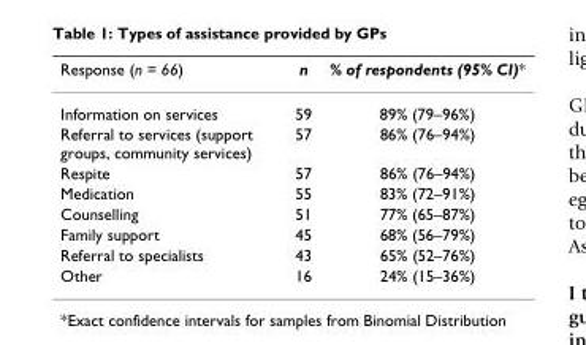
<table><thead><tr><td>Response (n = 66)</td><td>n</td><td>% of respondents (95% CI)*</td></tr></thead><tbody><tr><td>Information on services</td><td>59</td><td>89% (79–96%)</td></tr><tr><td>Referral to services (support groups, community services)</td><td>57</td><td>86% (76–94%)</td></tr><tr><td>Respite</td><td>57</td><td>86% (76–94%)</td></tr><tr><td>Medication</td><td>55</td><td>83% (72–91%)</td></tr><tr><td>Counselling</td><td>51</td><td>77% (65–87%)</td></tr><tr><td>Family support</td><td>45</td><td>68% (56–79%)</td></tr><tr><td>Referral to specialists</td><td>43</td><td>65% (52–76%)</td></tr><tr><td>Other</td><td>16</td><td>24% (15–36%)</td></tr></tbody></table>